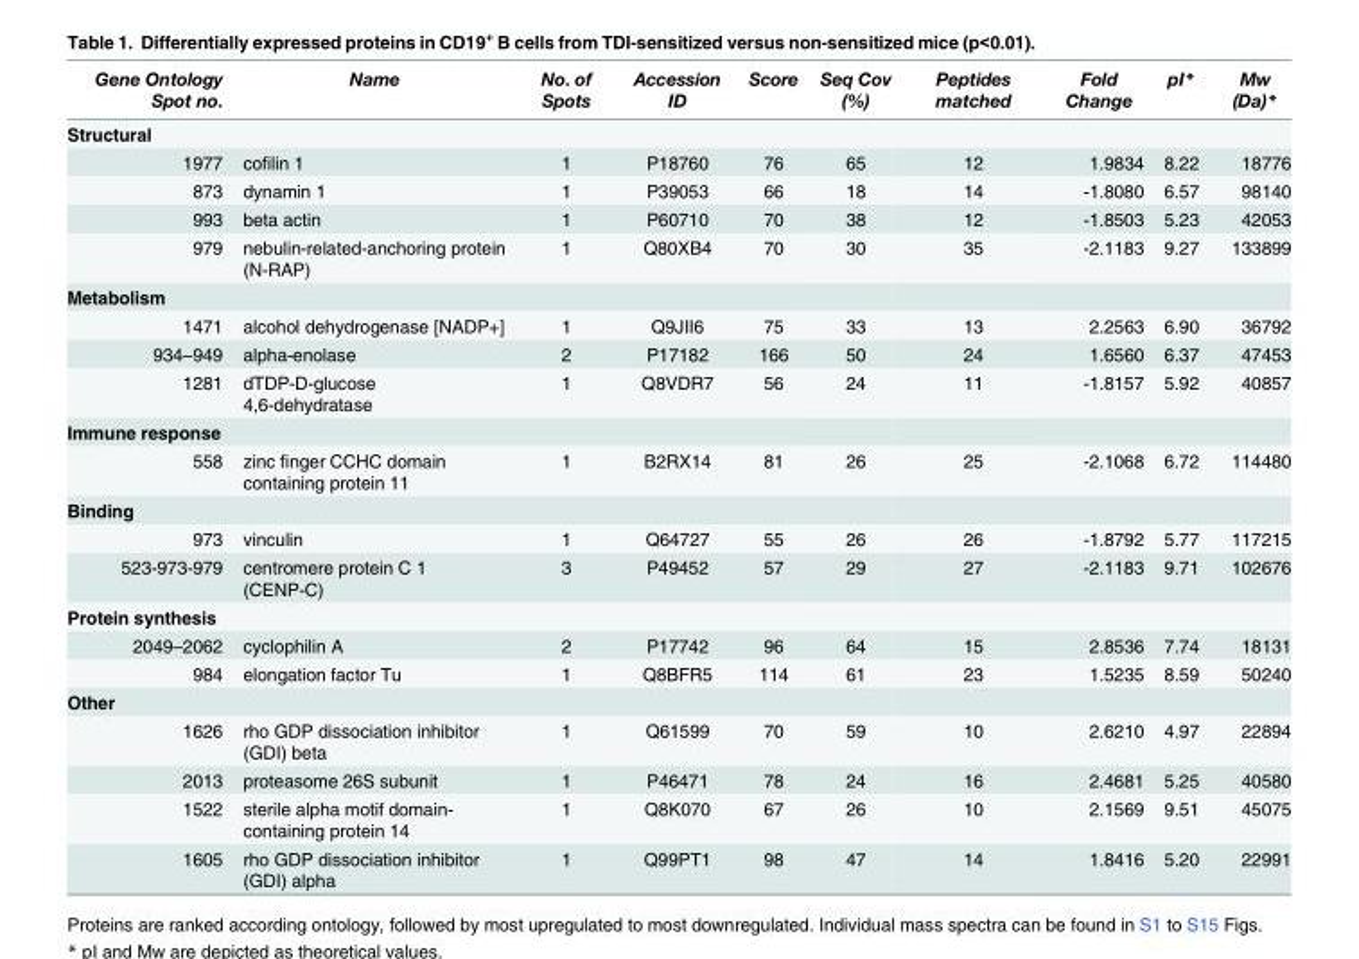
<table><thead><tr><td>Gene Ontology Spot no.</td><td>Name</td><td>No. of Spots</td><td>Accession ID</td><td>Score</td><td>Seq Cov (%)</td><td>Peptides matched</td><td>Fold Change</td><td>pI*</td><td>Mw (Da)*</td></tr></thead><tbody><tr><td colspan="10">Structural</td></tr><tr><td>1977</td><td>cofilin 1</td><td>1</td><td>P18760</td><td>76</td><td>65</td><td>12</td><td>1.9834</td><td>8.22</td><td>18776</td></tr><tr><td>873</td><td>dynamin 1</td><td>1</td><td>P39053</td><td>66</td><td>18</td><td>14</td><td>-1.8080</td><td>6.57</td><td>98140</td></tr><tr><td>993</td><td>beta actin</td><td>1</td><td>P60710</td><td>70</td><td>38</td><td>12</td><td>-1.8503</td><td>5.23</td><td>42053</td></tr><tr><td>979</td><td>nebulin-related-anchoring protein (N-RAP)</td><td>1</td><td>Q80XB4</td><td>70</td><td>30</td><td>35</td><td>-2.1183</td><td>9.27</td><td>133899</td></tr><tr><td colspan="10">Metabolism</td></tr><tr><td>1471</td><td>alcohol dehydrogenase [NADP+]</td><td>1</td><td>Q9JII6</td><td>75</td><td>33</td><td>13</td><td>2.2563</td><td>6.90</td><td>36792</td></tr><tr><td>934–949</td><td>alpha-enolase</td><td>2</td><td>P17182</td><td>166</td><td>50</td><td>24</td><td>1.6560</td><td>6.37</td><td>47453</td></tr><tr><td>1281</td><td>dTDP-D-glucose 4,6-dehydratase</td><td>1</td><td>Q8VDR7</td><td>56</td><td>24</td><td>11</td><td>-1.8157</td><td>5.92</td><td>40857</td></tr><tr><td colspan="10">Immune response</td></tr><tr><td>558</td><td>zinc finger CCHC domain containing protein 11</td><td>1</td><td>B2RX14</td><td>81</td><td>26</td><td>25</td><td>-2.1068</td><td>6.72</td><td>114480</td></tr><tr><td colspan="10">Binding</td></tr><tr><td>973</td><td>vinculin</td><td>1</td><td>Q64727</td><td>55</td><td>26</td><td>26</td><td>-1.8792</td><td>5.77</td><td>117215</td></tr><tr><td>523-973-979</td><td>centromere protein C 1 (CENP-C)</td><td>3</td><td>P49452</td><td>57</td><td>29</td><td>27</td><td>-2.1183</td><td>9.71</td><td>102676</td></tr><tr><td colspan="10">Protein synthesis</td></tr><tr><td>2049–2062</td><td>cyclophilin A</td><td>2</td><td>P17742</td><td>96</td><td>64</td><td>15</td><td>2.8536</td><td>7.74</td><td>18131</td></tr><tr><td>984</td><td>elongation factor Tu</td><td>1</td><td>Q8BFR5</td><td>114</td><td>61</td><td>23</td><td>1.5235</td><td>8.59</td><td>50240</td></tr><tr><td colspan="10">Other</td></tr><tr><td>1626</td><td>rho GDP dissociation inhibitor (GDI) beta</td><td>1</td><td>Q61599</td><td>70</td><td>59</td><td>10</td><td>2.6210</td><td>4.97</td><td>22894</td></tr><tr><td>2013</td><td>proteasome 26S subunit</td><td>1</td><td>P46471</td><td>78</td><td>24</td><td>16</td><td>2.4681</td><td>5.25</td><td>40580</td></tr><tr><td>1522</td><td>sterile alpha motif domain- containing protein 14</td><td>1</td><td>Q8K070</td><td>67</td><td>26</td><td>10</td><td>2.1569</td><td>9.51</td><td>45075</td></tr><tr><td>1605</td><td>rho GDP dissociation inhibitor (GDI) alpha</td><td>1</td><td>Q99PT1</td><td>98</td><td>47</td><td>14</td><td>1.8416</td><td>5.20</td><td>22991</td></tr></tbody></table>